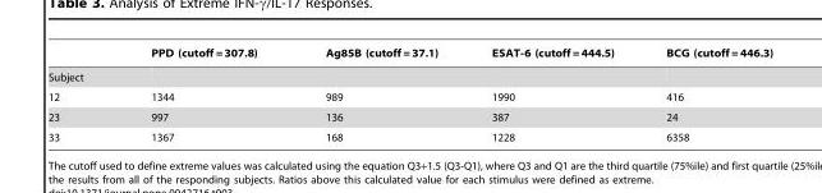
<table><thead><tr><td></td><td>PPD (cutoff = 307.8)</td><td>Ag85B (cutoff = 37.1)</td><td>ESAT-6 (cutoff = 444.5)</td><td>BCG (cutoff = 446.3)</td></tr></thead><tbody><tr><td colspan="5">Subject</td></tr><tr><td>12</td><td>1344</td><td>989</td><td>1990</td><td>416</td></tr><tr><td>23</td><td>997</td><td>136</td><td>387</td><td>24</td></tr><tr><td>33</td><td>1367</td><td>168</td><td>1228</td><td>6358</td></tr></tbody></table>